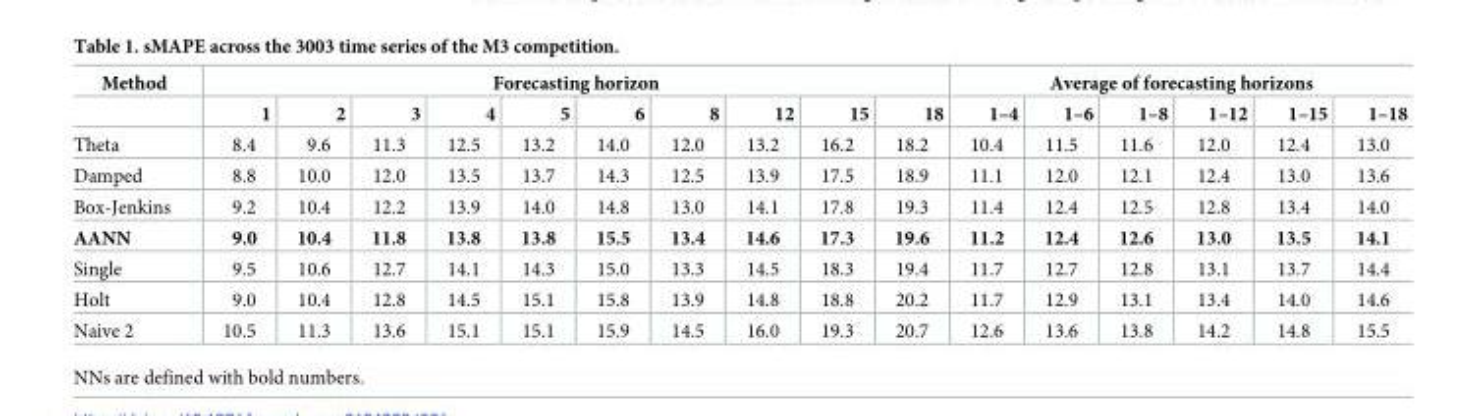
<table><thead><tr><td rowspan="2">Method</td><td colspan="10">Forecasting horizon</td><td colspan="6">Average of forecasting horizons</td></tr><tr><td>1</td><td>2</td><td>3</td><td>4</td><td>5</td><td>6</td><td>8</td><td>12</td><td>15</td><td>18</td><td>1–4</td><td>1–6</td><td>1–8</td><td>1–12</td><td>1–15</td><td>1–18</td></tr></thead><tbody><tr><td>Theta</td><td>8.4</td><td>9.6</td><td>11.3</td><td>12.5</td><td>13.2</td><td>14.0</td><td>12.0</td><td>13.2</td><td>16.2</td><td>18.2</td><td>10.4</td><td>11.5</td><td>11.6</td><td>12.0</td><td>12.4</td><td>13.0</td></tr><tr><td>Damped</td><td>8.8</td><td>10.0</td><td>12.0</td><td>13.5</td><td>13.7</td><td>14.3</td><td>12.5</td><td>13.9</td><td>17.5</td><td>18.9</td><td>11.1</td><td>12.0</td><td>12.1</td><td>12.4</td><td>13.0</td><td>13.6</td></tr><tr><td>Box-Jenkins</td><td>9.2</td><td>10.4</td><td>12.2</td><td>13.9</td><td>14.0</td><td>14.8</td><td>13.0</td><td>14.1</td><td>17.8</td><td>19.3</td><td>11.4</td><td>12.4</td><td>12.5</td><td>12.8</td><td>13.4</td><td>14.0</td></tr><tr><td>AANN</td><td>9.0</td><td>10.4</td><td>11.8</td><td>13.8</td><td>13.8</td><td>15.5</td><td>13.4</td><td>14.6</td><td>17.3</td><td>19.6</td><td>11.2</td><td>12.4</td><td>12.6</td><td>13.0</td><td>13.5</td><td>14.1</td></tr><tr><td>Single</td><td>9.5</td><td>10.6</td><td>12.7</td><td>14.1</td><td>14.3</td><td>15.0</td><td>13.3</td><td>14.5</td><td>18.3</td><td>19.4</td><td>11.7</td><td>12.7</td><td>12.8</td><td>13.1</td><td>13.7</td><td>14.4</td></tr><tr><td>Holt</td><td>9.0</td><td>10.4</td><td>12.8</td><td>14.5</td><td>15.1</td><td>15.8</td><td>13.9</td><td>14.8</td><td>18.8</td><td>20.2</td><td>11.7</td><td>12.9</td><td>13.1</td><td>13.4</td><td>14.0</td><td>14.6</td></tr><tr><td>Naive 2</td><td>10.5</td><td>11.3</td><td>13.6</td><td>15.1</td><td>15.1</td><td>15.9</td><td>14.5</td><td>16.0</td><td>19.3</td><td>20.7</td><td>12.6</td><td>13.6</td><td>13.8</td><td>14.2</td><td>14.8</td><td>15.5</td></tr></tbody></table>